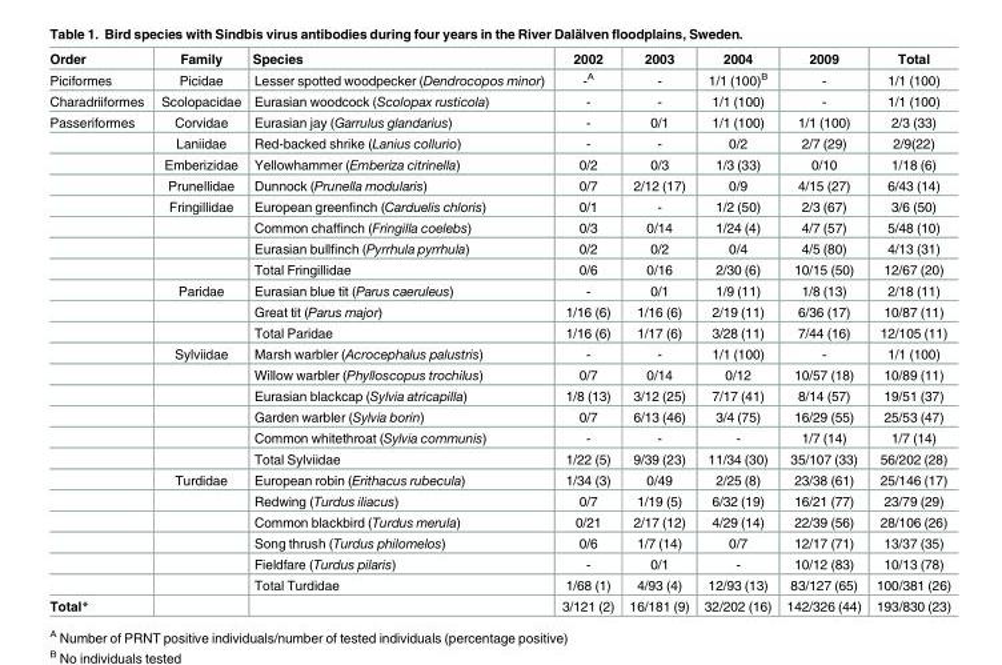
<table><thead><tr><td>Order</td><td>Family</td><td>Species</td><td>2002</td><td>2003</td><td>2004</td><td>2009</td><td>Total</td></tr></thead><tbody><tr><td>Piciformes</td><td>Picidae</td><td>Lesser spotted woodpecker (Dendrocopos minor)</td><td>-<sup>A</sup></td><td>-</td><td>1/1 (100)<sup>B</sup></td><td>-</td><td>1/1 (100)</td></tr><tr><td>Charadriiformes</td><td>Scolopacidae</td><td>Eurasian woodcock (Scolopax rusticola)</td><td>-</td><td>-</td><td>1/1 (100)</td><td>-</td><td>1/1 (100)</td></tr><tr><td rowspan="23">Passeriformes</td><td>Corvidae</td><td>Eurasian jay (Garrulus glandarius)</td><td>-</td><td>0/1</td><td>1/1 (100)</td><td>1/1 (100)</td><td>2/3 (33)</td></tr><tr><td>Laniidae</td><td>Red-backed shrike (Lanius collurio)</td><td>-</td><td>-</td><td>0/2</td><td>2/7 (29)</td><td>2/9(22)</td></tr><tr><td>Emberizidae</td><td>Yellowhammer (Emberiza citrinella)</td><td>0/2</td><td>0/3</td><td>1/3 (33)</td><td>0/10</td><td>1/18 (6)</td></tr><tr><td>Prunellidae</td><td>Dunnock (Prunella modularis)</td><td>0/7</td><td>2/12 (17)</td><td>0/9</td><td>4/15 (27)</td><td>6/43 (14)</td></tr><tr><td>Fringillidae</td><td>European greenfinch (Carduelis chloris)</td><td>0/1</td><td>-</td><td>1/2 (50)</td><td>2/3 (67)</td><td>3/6 (50)</td></tr><tr><td></td><td>Common chaffinch (Fringilla coelebs)</td><td>0/3</td><td>0/14</td><td>1/24 (4)</td><td>4/7 (57)</td><td>5/48 (10)</td></tr><tr><td></td><td>Eurasian bullfinch (Pyrrhula pyrrhula)</td><td>0/2</td><td>0/2</td><td>0/4</td><td>4/5 (80)</td><td>4/13 (31)</td></tr><tr><td></td><td>Total Fringillidae</td><td>0/6</td><td>0/16</td><td>2/30 (6)</td><td>10/15 (50)</td><td>12/67 (20)</td></tr><tr><td>Paridae</td><td>Eurasian blue tit (Parus caeruleus)</td><td>-</td><td>0/1</td><td>1/9 (11)</td><td>1/8 (13)</td><td>2/18 (11)</td></tr><tr><td></td><td>Great tit (Parus major)</td><td>1/16 (6)</td><td>1/16 (6)</td><td>2/19 (11)</td><td>6/36 (17)</td><td>10/87 (11)</td></tr><tr><td></td><td>Total Paridae</td><td>1/16 (6)</td><td>1/17 (6)</td><td>3/28 (11)</td><td>7/44 (16)</td><td>12/105 (11)</td></tr><tr><td>Sylviidae</td><td>Marsh warbler (Acrocephalus palustris)</td><td>-</td><td>-</td><td>1/1 (100)</td><td>-</td><td>1/1 (100)</td></tr><tr><td></td><td>Willow warbler (Phylloscopus trochilus)</td><td>0/7</td><td>0/14</td><td>0/12</td><td>10/57 (18)</td><td>10/89 (11)</td></tr><tr><td></td><td>Eurasian blackcap (Sylvia atricapilla)</td><td>1/8 (13)</td><td>3/12 (25)</td><td>7/17 (41)</td><td>8/14 (57)</td><td>19/51 (37)</td></tr><tr><td></td><td>Garden warbler (Sylvia borin)</td><td>0/7</td><td>6/13 (46)</td><td>3/4 (75)</td><td>16/29 (55)</td><td>25/53 (47)</td></tr><tr><td></td><td>Common whitethroat (Sylvia communis)</td><td>-</td><td>-</td><td>-</td><td>1/7 (14)</td><td>1/7 (14)</td></tr><tr><td></td><td>Total Sylviidae</td><td>1/22 (5)</td><td>9/39 (23)</td><td>11/34 (30)</td><td>35/107 (33)</td><td>56/202 (28)</td></tr><tr><td>Turdidae</td><td>European robin (Erithacus rubecula)</td><td>1/34 (3)</td><td>0/49</td><td>2/25 (8)</td><td>23/38 (61)</td><td>25/146 (17)</td></tr><tr><td></td><td>Redwing (Turdus iliacus)</td><td>0/7</td><td>1/19 (5)</td><td>6/32 (19)</td><td>16/21 (77)</td><td>23/79 (29)</td></tr><tr><td></td><td>Common blackbird (Turdus merula)</td><td>0/21</td><td>2/17 (12)</td><td>4/29 (14)</td><td>22/39 (56)</td><td>28/106 (26)</td></tr><tr><td></td><td>Song thrush (Turdus philomelos)</td><td>0/6</td><td>1/7 (14)</td><td>0/7</td><td>12/17 (71)</td><td>13/37 (35)</td></tr><tr><td></td><td>Fieldfare (Turdus pilaris)</td><td>-</td><td>0/1</td><td>-</td><td>10/12 (83)</td><td>10/13 (78)</td></tr><tr><td></td><td>Total Turdidae</td><td>1/68 (1)</td><td>4/93 (4)</td><td>12/93 (13)</td><td>83/127 (65)</td><td>100/381 (26)</td></tr><tr><td>Total*</td><td></td><td></td><td>3/121 (2)</td><td>16/181 (9)</td><td>32/202 (16)</td><td>142/326 (44)</td><td>193/830 (23)</td></tr></tbody></table>